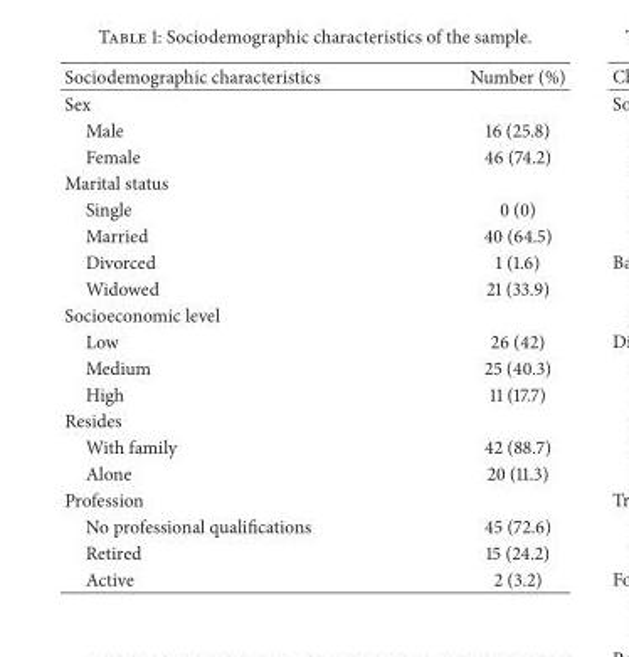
<table><thead><tr><td>Sociodemographic characteristics</td><td>Number (%)</td></tr></thead><tbody><tr><td colspan="2">Sex</td></tr><tr><td>Male</td><td>16 (25.8)</td></tr><tr><td>Female</td><td>46 (74.2)</td></tr><tr><td colspan="2">Marital status</td></tr><tr><td>Single</td><td>0 (0)</td></tr><tr><td>Married</td><td>40 (64.5)</td></tr><tr><td>Divorced</td><td>1 (1.6)</td></tr><tr><td>Widowed</td><td>21 (33.9)</td></tr><tr><td colspan="2">Socioeconomic level</td></tr><tr><td>Low</td><td>26 (42)</td></tr><tr><td>Medium</td><td>25 (40.3)</td></tr><tr><td>High</td><td>11 (17.7)</td></tr><tr><td colspan="2">Resides</td></tr><tr><td>With family</td><td>42 (88.7)</td></tr><tr><td>Alone</td><td>20 (11.3)</td></tr><tr><td colspan="2">Profession</td></tr><tr><td>No professional qualifications</td><td>45 (72.6)</td></tr><tr><td>Retired</td><td>15 (24.2)</td></tr><tr><td>Active</td><td>2 (3.2)</td></tr></tbody></table>